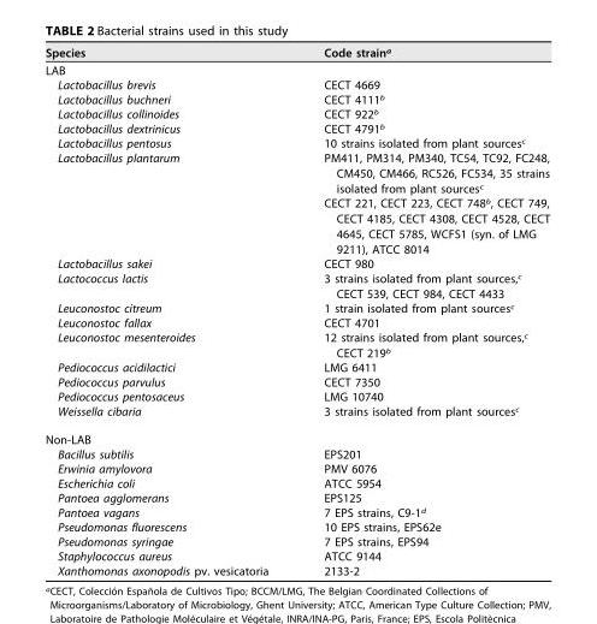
<table><thead><tr><td>Species</td><td>Code strain<sup>a</sup></td></tr></thead><tbody><tr><td colspan="2">LAB</td></tr><tr><td>Lactobacillus brevis</td><td>CECT 4669</td></tr><tr><td>Lactobacillus buchneri</td><td>CECT 4111<sup>b</sup></td></tr><tr><td>Lactobacillus collinoides</td><td>CECT 922<sup>b</sup></td></tr><tr><td>Lactobacillus dextrinicus</td><td>CECT 4791<sup>b</sup></td></tr><tr><td>Lactobacillus pentosus</td><td>10 strains isolated from plant sources<sup>c</sup></td></tr><tr><td rowspan="2">Lactobacillus plantarum</td><td>PM411, PM314, PM340, TC54, TC92, FC248, CM450, CM466, RC526, FC534, 35 strains isolated from plant sources<sup>c</sup></td></tr><tr><td>CECT 221, CECT 223, CECT 748<sup>b</sup>, CECT 749, CECT 4185, CECT 4308, CECT 4528, CECT 4645, CECT 5785, WCFS1 (syn. of LMG 9211), ATCC 8014</td></tr><tr><td>Lactobacillus sakei</td><td>CECT 980</td></tr><tr><td>Lactococcus lactis</td><td>3 strains isolated from plant sources,<sup>c</sup> CECT 539, CECT 984, CECT 4433</td></tr><tr><td>Leuconostoc citreum</td><td>1 strain isolated from plant sources<sup>c</sup></td></tr><tr><td>Leuconostoc fallax</td><td>CECT 4701</td></tr><tr><td>Leuconostoc mesenteroides</td><td>12 strains isolated from plant sources,<sup>c</sup> CECT 219<sup>b</sup></td></tr><tr><td>Pediococcus acidilactici</td><td>LMG 6411</td></tr><tr><td>Pediococcus parvulus</td><td>CECT 7350</td></tr><tr><td>Pediococcus pentosaceus</td><td>LMG 10740</td></tr><tr><td>Weissella cibaria</td><td>3 strains isolated from plant sources<sup>c</sup></td></tr><tr><td colspan="2">Non-LAB</td></tr><tr><td>Bacillus subtilis</td><td>EPS201</td></tr><tr><td>Erwinia amylovora</td><td>PMV 6076</td></tr><tr><td>Escherichia coli</td><td>ATCC 5954</td></tr><tr><td>Pantoea agglomerans</td><td>EPS125</td></tr><tr><td>Pantoea vagans</td><td>7 EPS strains, C9-1<sup>d</sup></td></tr><tr><td>Pseudomonas fluorescens</td><td>10 EPS strains, EPS62e</td></tr><tr><td>Pseudomonas syringae</td><td>7 EPS strains, EPS94</td></tr><tr><td>Staphylococcus aureus</td><td>ATCC 9144</td></tr><tr><td>Xanthomonas axonopodis pv. vesicatoria</td><td>2133-2</td></tr></tbody></table>